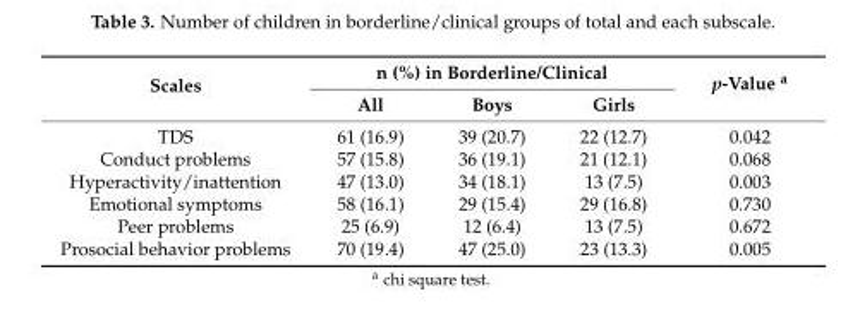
<table><thead><tr><td rowspan="2">Scales</td><td colspan="3">n (%) in Borderline/Clinical</td><td rowspan="2">p-Value <sup>a</sup></td></tr><tr><td>All</td><td>Boys</td><td>Girls</td></tr></thead><tbody><tr><td>TDS</td><td>61 (16.9)</td><td>39 (20.7)</td><td>22 (12.7)</td><td>0.042</td></tr><tr><td>Conduct problems</td><td>57 (15.8)</td><td>36 (19.1)</td><td>21 (12.1)</td><td>0.068</td></tr><tr><td>Hyperactivity/inattention</td><td>47 (13.0)</td><td>34 (18.1)</td><td>13 (7.5)</td><td>0.003</td></tr><tr><td>Emotional symptoms</td><td>58 (16.1)</td><td>29 (15.4)</td><td>29 (16.8)</td><td>0.730</td></tr><tr><td>Peer problems</td><td>25 (6.9)</td><td>12 (6.4)</td><td>13 (7.5)</td><td>0.672</td></tr><tr><td>Prosocial behavior problems</td><td>70 (19.4)</td><td>47 (25.0)</td><td>23 (13.3)</td><td>0.005</td></tr></tbody></table>